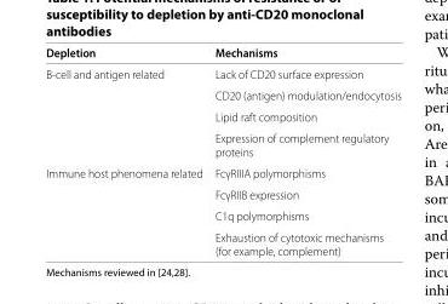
<table><thead><tr><td>Depletion</td><td>Mechanisms</td></tr></thead><tbody><tr><td rowspan="4">B-cell and antigen related</td><td>Lack of CD20 surface expression</td></tr><tr><td>CD20 (antigen) modulation/endocytosis</td></tr><tr><td>Lipid raft composition</td></tr><tr><td>Expression of complement regulatory proteins</td></tr><tr><td rowspan="4">Immune host phenomena related</td><td>FcγRIIIA poly morphisms</td></tr><tr><td>FcγRIIB expression</td></tr><tr><td>C1q polymorphisms</td></tr><tr><td>Exhaustion of cytotoxic mechanisms (for example, complement)</td></tr></tbody></table>